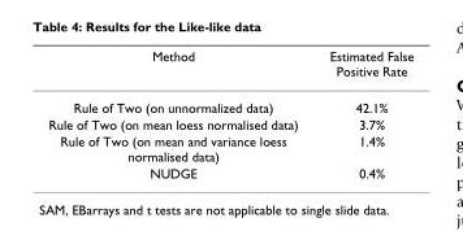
<table><thead><tr><td>Method</td><td>Estimated False Positive Rate</td></tr></thead><tbody><tr><td>Rule of Two (on unnormalized data)</td><td>42.1%</td></tr><tr><td>Rule of Two (on mean loess normalised data)</td><td>3.7%</td></tr><tr><td>Rule of Two (on mean and variance loess normalised data)</td><td>1.4%</td></tr><tr><td>NUDGE</td><td>0.4%</td></tr></tbody></table>